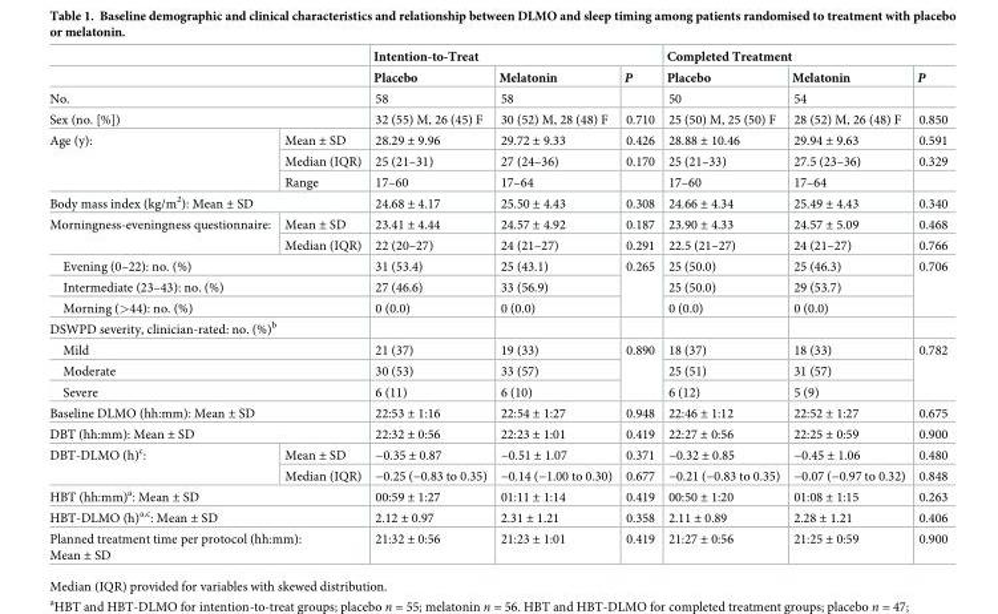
<table><thead><tr><td rowspan="2"></td><td rowspan="2"></td><td colspan="3">Intention-to-Treat</td><td colspan="3">Completed Treatment</td></tr><tr><td>Placebo</td><td>Melatonin</td><td>P</td><td>Placebo</td><td>Melatonin</td><td>P</td></tr></thead><tbody><tr><td colspan="2">No.</td><td>58</td><td>58</td><td></td><td>50</td><td>54</td><td></td></tr><tr><td colspan="2">Sex (no. [%])</td><td>32 (55) M, 26 (45) F</td><td>30 (52) M, 28 (48) F</td><td>0.710</td><td>25 (50) M, 25 (50) F</td><td>28 (52) M, 26 (48) F</td><td>0.850</td></tr><tr><td rowspan="3">Age (y):</td><td>Mean ± SD</td><td>28.29 ± 9.96</td><td>29.72 ± 9.33</td><td>0.426</td><td>28.88 ± 10.46</td><td>29.94 ± 9.63</td><td>0.591</td></tr><tr><td>Median (IQR)</td><td>25 (21–31)</td><td>27 (24–36)</td><td>0.170</td><td>25 (21–33)</td><td>27.5 (23–36)</td><td>0.329</td></tr><tr><td>Range</td><td>17–60</td><td>17–64</td><td></td><td>17–60</td><td>17–64</td><td></td></tr><tr><td colspan="2">Body mass index (kg/m<sup>2</sup>): Mean ± SD</td><td>24.68 ± 4.17</td><td>25.50 ± 4.43</td><td>0.308</td><td>24.66 ± 4.34</td><td>25.49 ± 4.43</td><td>0.340</td></tr><tr><td rowspan="2">Morningness-eveningness questionnaire:</td><td>Mean ± SD</td><td>23.41 ± 4.44</td><td>24.57 ± 4.92</td><td>0.187</td><td>23.90 ± 4.33</td><td>24.57 ± 5.09</td><td>0.468</td></tr><tr><td>Median (IQR)</td><td>22 (20–27)</td><td>24 (21–27)</td><td>0.291</td><td>22.5 (21–27)</td><td>24 (21–27)</td><td>0.766</td></tr><tr><td colspan="2">Evening (0–22): no. (%)</td><td>31 (53.4)</td><td>25 (43.1)</td><td rowspan="3">0.265</td><td>25 (50.0)</td><td>25 (46.3)</td><td rowspan="3">0.706</td></tr><tr><td colspan="2">Intermediate (23–43): no. (%)</td><td>27 (46.6)</td><td>33 (56.9)</td><td>25 (50.0)</td><td>29 (53.7)</td></tr><tr><td colspan="2">Morning (&gt;44): no. (%)</td><td>0 (0.0)</td><td>0 (0.0)</td><td>0 (0.0)</td><td>0 (0.0)</td></tr><tr><td colspan="8">DSWPD severity, clinician-rated: no. (%)<sup>b</sup></td></tr><tr><td colspan="2">Mild</td><td>21 (37)</td><td>19 (33)</td><td rowspan="3">0.890</td><td>18 (37)</td><td>18 (33)</td><td rowspan="3">0.782</td></tr><tr><td colspan="2">Moderate</td><td>30 (53)</td><td>33 (57)</td><td>25 (51)</td><td>31 (57)</td></tr><tr><td colspan="2">Severe</td><td>6 (11)</td><td>6 (10)</td><td>6 (12)</td><td>5 (9)</td></tr><tr><td colspan="2">Baseline DLMO (hh:mm): Mean ± SD</td><td>22:53 ± 1:16</td><td>22:54 ± 1:27</td><td>0.948</td><td>22:46 ± 1:12</td><td>22:52 ± 1:27</td><td>0.675</td></tr><tr><td colspan="2">DBT (hh:mm): Mean ± SD</td><td>22:32 ± 0:56</td><td>22:23 ± 1:01</td><td>0.419</td><td>22:27 ± 0:56</td><td>22:25 ± 0:59</td><td>0.900</td></tr><tr><td rowspan="2">DBT-DLMO (h)<sup>c</sup>:</td><td>Mean ± SD</td><td>−0.35 ± 0.87</td><td>−0.51 ± 1.07</td><td>0.371</td><td>−0.32 ± 0.85</td><td>−0.45 ± 1.06</td><td>0.480</td></tr><tr><td>Median (IQR)</td><td>−0.25 (−0.83 to 0.35)</td><td>−0.14 (−1.00 to 0.30)</td><td>0.677</td><td>−0.21 (−0.83 to 0.35)</td><td>−0.07 (−0.97 to 0.32)</td><td>0.848</td></tr><tr><td colspan="2">HBT (hh:mm)<sup>a</sup>: Mean ± SD</td><td>00:59 ± 1:27</td><td>01:11 ± 1:14</td><td>0.419</td><td>00:50 ± 1:20</td><td>01:08 ± 1:15</td><td>0.263</td></tr><tr><td colspan="2">HBT-DLMO (h)<sup>a,c</sup>: Mean ± SD</td><td>2.12 ± 0.97</td><td>2.31 ± 1.21</td><td>0.358</td><td>2.11 ± 0.89</td><td>2.28 ± 1.21</td><td>0.406</td></tr><tr><td colspan="2">Planned treatment time per protocol (hh:mm): Mean ± SD</td><td>21:32 ± 0:56</td><td>21:23 ± 1:01</td><td>0.419</td><td>21:27 ± 0:56</td><td>21:25 ± 0:59</td><td>0.900</td></tr></tbody></table>